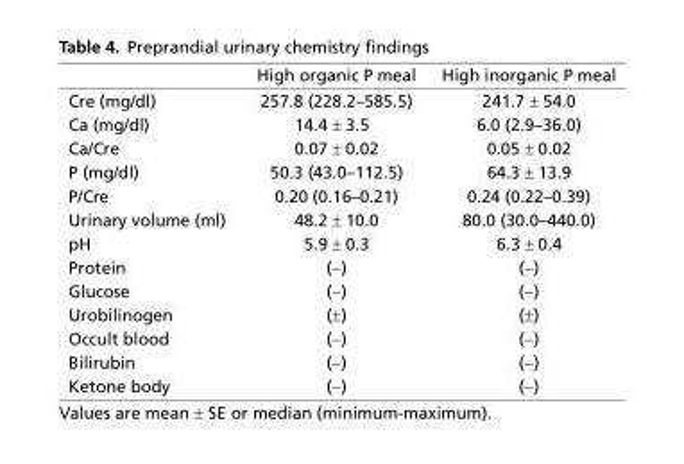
<table><thead><tr><td></td><td>High organic P meal</td><td>High inorganic P meal</td></tr></thead><tbody><tr><td>Cre (mg/dl)</td><td>257.8 (228.2–585.5)</td><td>241.7 ± 54.0</td></tr><tr><td>Ca (mg/dl)</td><td>14.4 ± 3.5</td><td>6.0 (2.9–36.0)</td></tr><tr><td>Ca/Cre</td><td>0.07 ± 0.02</td><td>0.05 ± 0.02</td></tr><tr><td>P (mg/dl)</td><td>50.3 (43.0–112.5)</td><td>64.3 ± 13.9</td></tr><tr><td>P/Cre</td><td>0.20 (0.16–0.21)</td><td>0.24 (0.22–0.39)</td></tr><tr><td>Urinary volume (ml)</td><td>48.2 ± 10.0</td><td>80.0 (30.0–440.0)</td></tr><tr><td>pH</td><td>5.9 ± 0.3</td><td>6.3 ± 0.4</td></tr><tr><td>Protein</td><td>(−)</td><td>(−)</td></tr><tr><td>Glucose</td><td>(−)</td><td>(−)</td></tr><tr><td>Urobilinogen</td><td>(±)</td><td>(±)</td></tr><tr><td>Occult blood</td><td>(−)</td><td>(−)</td></tr><tr><td>Bilirubin</td><td>(−)</td><td>(−)</td></tr><tr><td>Ketone body</td><td>(−)</td><td>(−)</td></tr></tbody></table>